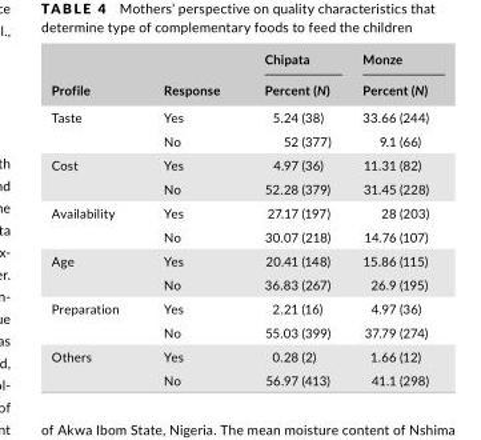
<table><thead><tr><td rowspan="2">Profile</td><td rowspan="2">Response</td><td rowspan="2">Chipata Percent (N)</td><td rowspan="2">Monze Percent (N)</td></tr><tr></tr></thead><tbody><tr><td rowspan="2">Taste</td><td>Yes</td><td>5.24 (38)</td><td>33.66 (244)</td></tr><tr><td>No</td><td>52 (377)</td><td>9.1 (66)</td></tr><tr><td rowspan="2">Cost</td><td>Yes</td><td>4.97 (36)</td><td>11.31 (82)</td></tr><tr><td>No</td><td>52.28 (379)</td><td>31.45 (228)</td></tr><tr><td rowspan="2">Availability</td><td>Yes</td><td>27.17 (197)</td><td>28 (203)</td></tr><tr><td>No</td><td>30.07 (218)</td><td>14.76 (107)</td></tr><tr><td rowspan="2">Age</td><td>Yes</td><td>20.41 (148)</td><td>15.86 (115)</td></tr><tr><td>No</td><td>36.83 (267)</td><td>26.9 (195)</td></tr><tr><td rowspan="2">Preparation</td><td>Yes</td><td>2.21 (16)</td><td>4.97 (36)</td></tr><tr><td>No</td><td>55.03 (399)</td><td>37.79 (274)</td></tr><tr><td rowspan="2">Others</td><td>Yes</td><td>0.28 (2)</td><td>1.66 (12)</td></tr><tr><td>No</td><td>56.97 (413)</td><td>41.1 (298)</td></tr></tbody></table>